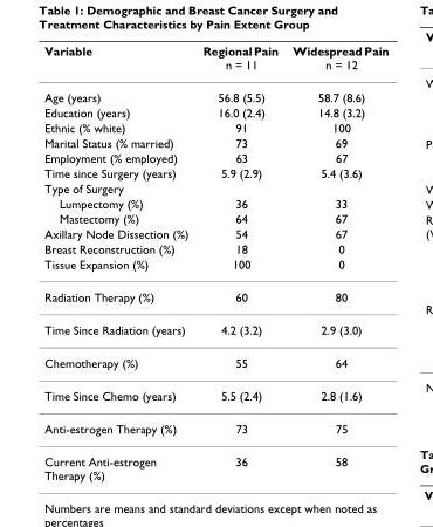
<table><thead><tr><td>Variable</td><td>Regional Pain n = 11</td><td>Widespread Pain n = 12</td></tr></thead><tbody><tr><td>Age (years)</td><td>56.8 (5.5)</td><td>58.7 (8.6)</td></tr><tr><td>Education (years)</td><td>16.0 (2.4)</td><td>14.8 (3.2)</td></tr><tr><td>Ethnic (% white)</td><td>91</td><td>100</td></tr><tr><td>Marital Status (% married)</td><td>73</td><td>69</td></tr><tr><td>Employment (% employed)</td><td>63</td><td>67</td></tr><tr><td>Time since Surgery (years)</td><td>5.9 (2.9)</td><td>5.4 (3.6)</td></tr><tr><td colspan="3">Type of Surgery</td></tr><tr><td>Lumpectomy (%)</td><td>36</td><td>33</td></tr><tr><td>Mastectomy (%)</td><td>64</td><td>67</td></tr><tr><td>Axillary Node Dissection (%)</td><td>54</td><td>67</td></tr><tr><td>Breast Reconstruction (%)</td><td>18</td><td>0</td></tr><tr><td>Tissue Expansion (%)</td><td>100</td><td>0</td></tr><tr><td>Radiation Therapy (%)</td><td>60</td><td>80</td></tr><tr><td>Time Since Radiation (years)</td><td>4.2 (3.2)</td><td>2.9 (3.0)</td></tr><tr><td>Chemotherapy (%)</td><td>55</td><td>64</td></tr><tr><td>Time Since Chemo (years)</td><td>5.5 (2.4)</td><td>2.8 (1.6)</td></tr><tr><td>Anti-estrogen Therapy (%)</td><td>73</td><td>75</td></tr><tr><td>Current Anti-estrogen Therapy (%)</td><td>36</td><td>58</td></tr></tbody></table>